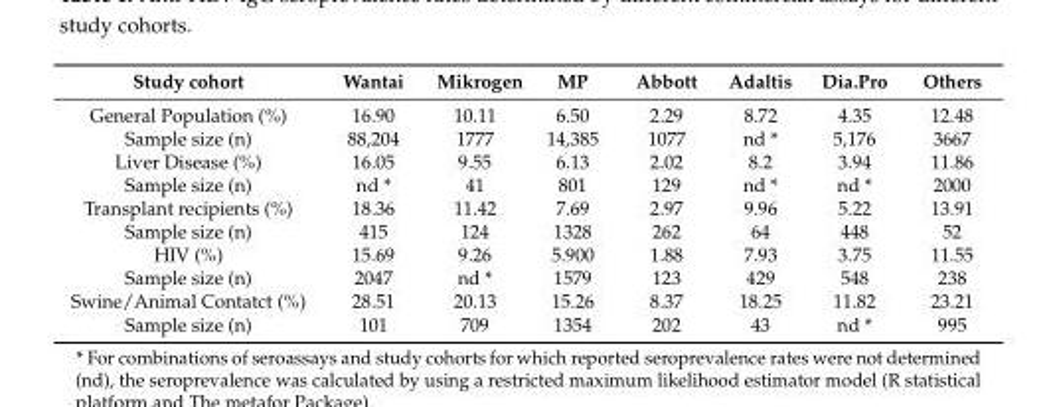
<table><thead><tr><td>Study cohort</td><td>Wantai</td><td>Mikrogen</td><td>MP</td><td>Abbott</td><td>Adaltis</td><td>Dia.Pro</td><td>Others</td></tr></thead><tbody><tr><td>General Population (%)</td><td>16.90</td><td>10.11</td><td>6.50</td><td>2.29</td><td>8.72</td><td>4.35</td><td>12.48</td></tr><tr><td>Sample size (n)</td><td>88,204</td><td>1777</td><td>14,385</td><td>1077</td><td>nd *</td><td>5,176</td><td>3667</td></tr><tr><td>Liver Disease (%)</td><td>16.05</td><td>9.55</td><td>6.13</td><td>2.02</td><td>8.2</td><td>3.94</td><td>11.86</td></tr><tr><td>Sample size (n)</td><td>nd *</td><td>41</td><td>801</td><td>129</td><td>nd *</td><td>nd *</td><td>2000</td></tr><tr><td>Transplant recipients (%)</td><td>18.36</td><td>11.42</td><td>7.69</td><td>2.97</td><td>9.96</td><td>5.22</td><td>13.91</td></tr><tr><td>Sample size (n)</td><td>415</td><td>124</td><td>1328</td><td>262</td><td>64</td><td>448</td><td>52</td></tr><tr><td>HIV (%)</td><td>15.69</td><td>9.26</td><td>5.900</td><td>1.88</td><td>7.93</td><td>3.75</td><td>11.55</td></tr><tr><td>Sample size (n)</td><td>2047</td><td>nd *</td><td>1579</td><td>123</td><td>429</td><td>548</td><td>238</td></tr><tr><td>Swine/Animal Contatct (%)</td><td>28.51</td><td>20.13</td><td>15.26</td><td>8.37</td><td>18.25</td><td>11.82</td><td>23.21</td></tr><tr><td>Sample size (n)</td><td>101</td><td>709</td><td>1354</td><td>202</td><td>43</td><td>nd *</td><td>995</td></tr></tbody></table>